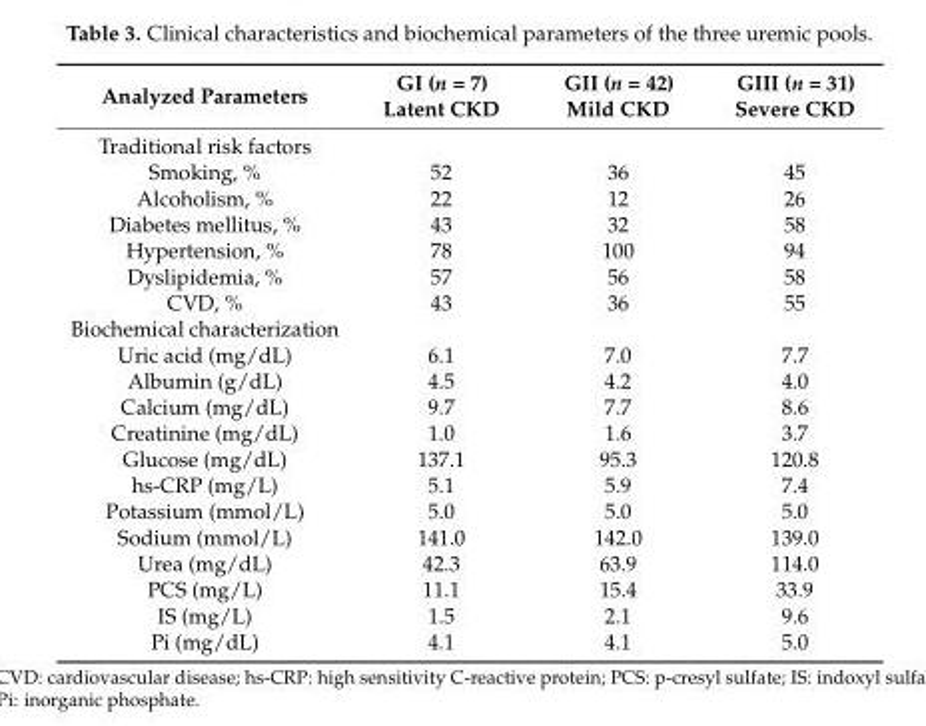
<table><thead><tr><td>Analyzed Parameters</td><td>GI (n = 7) Latent CKD</td><td>GII (n = 42) Mild CKD</td><td>GIII (n = 31) Severe CKD</td></tr></thead><tbody><tr><td colspan="4">Traditional risk factors</td></tr><tr><td>Smoking, %</td><td>52</td><td>36</td><td>45</td></tr><tr><td>Alcoholism, %</td><td>22</td><td>12</td><td>26</td></tr><tr><td>Diabetes mellitus, %</td><td>43</td><td>32</td><td>58</td></tr><tr><td>Hypertension, %</td><td>78</td><td>100</td><td>94</td></tr><tr><td>Dyslipidemia, %</td><td>57</td><td>56</td><td>58</td></tr><tr><td>CVD, %</td><td>43</td><td>36</td><td>55</td></tr><tr><td colspan="4">Biochemical characterization</td></tr><tr><td>Uric acid (mg/dL)</td><td>6.1</td><td>7.0</td><td>7.7</td></tr><tr><td>Albumin (g/dL)</td><td>4.5</td><td>4.2</td><td>4.0</td></tr><tr><td>Calcium (mg/dL)</td><td>9.7</td><td>7.7</td><td>8.6</td></tr><tr><td>Creatinine (mg/dL)</td><td>1.0</td><td>1.6</td><td>3.7</td></tr><tr><td>Glucose (mg/dL)</td><td>137.1</td><td>95.3</td><td>120.8</td></tr><tr><td>hs-CRP (mg/L)</td><td>5.1</td><td>5.9</td><td>7.4</td></tr><tr><td>Potassium (mmol/L)</td><td>5.0</td><td>5.0</td><td>5.0</td></tr><tr><td>Sodium (mmol/L)</td><td>141.0</td><td>142.0</td><td>139.0</td></tr><tr><td>Urea (mg/dL)</td><td>42.3</td><td>63.9</td><td>114.0</td></tr><tr><td>PCS (mg/L)</td><td>11.1</td><td>15.4</td><td>33.9</td></tr><tr><td>IS (mg/L)</td><td>1.5</td><td>2.1</td><td>9.6</td></tr><tr><td>Pi (mg/dL)</td><td>4.1</td><td>4.1</td><td>5.0</td></tr></tbody></table>